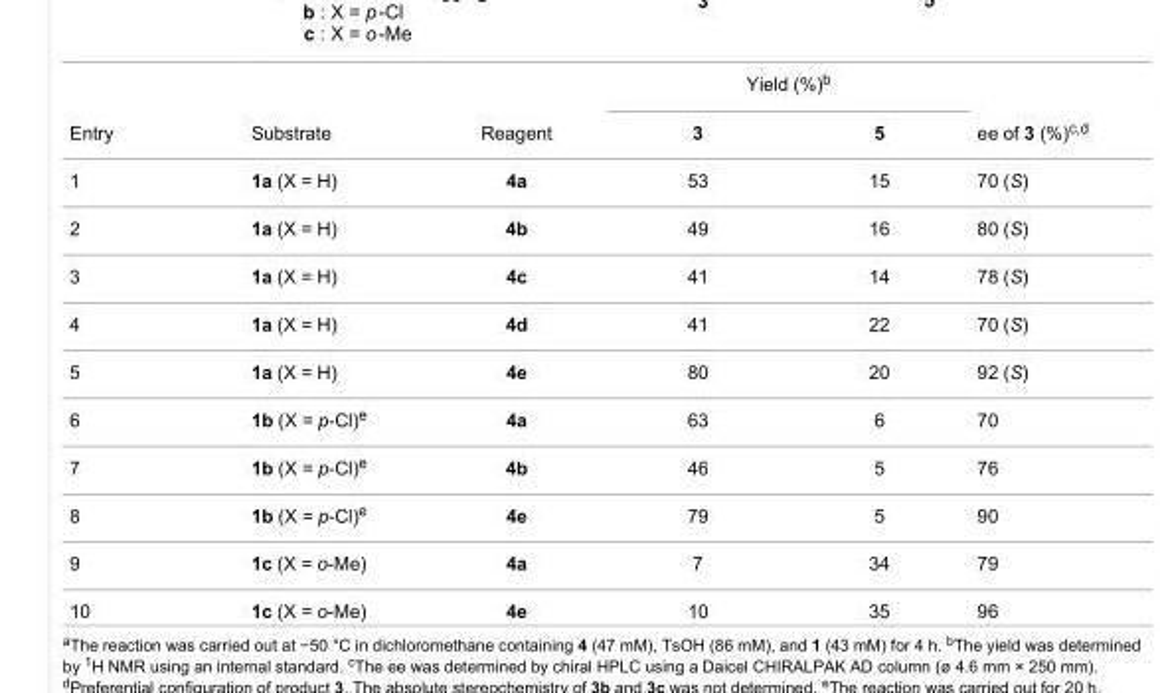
<table><thead><tr><td rowspan="2">Entry</td><td rowspan="2">Substrate</td><td rowspan="2">Reagent</td><td colspan="2">Yield (%)<sup>b</sup></td><td rowspan="2">ee of 3 (%)<sup>c,d</sup></td></tr><tr><td>3</td><td>5</td></tr></thead><tbody><tr><td>1</td><td>1a (X = H)</td><td>4a</td><td>53</td><td>15</td><td>70 (S)</td></tr><tr><td>2</td><td>1a (X = H)</td><td>4b</td><td>49</td><td>16</td><td>80 (S)</td></tr><tr><td>3</td><td>1a (X = H)</td><td>4c</td><td>41</td><td>14</td><td>78 (S)</td></tr><tr><td>4</td><td>1a (X = H)</td><td>4d</td><td>41</td><td>22</td><td>70 (S)</td></tr><tr><td>5</td><td>1a (X = H)</td><td>4e</td><td>80</td><td>20</td><td>92 (S)</td></tr><tr><td>6</td><td>1b (X = p-Cl)<sup>e</sup></td><td>4a</td><td>63</td><td>6</td><td>70</td></tr><tr><td>7</td><td>1b (X = p-Cl)<sup>e</sup></td><td>4b</td><td>46</td><td>5</td><td>76</td></tr><tr><td>8</td><td>1b (X = p-Cl)<sup>e</sup></td><td>4e</td><td>79</td><td>5</td><td>90</td></tr><tr><td>9</td><td>1c (X = o-Me)</td><td>4a</td><td>7</td><td>34</td><td>79</td></tr><tr><td>10</td><td>1c (X = o-Me)</td><td>4e</td><td>10</td><td>35</td><td>96</td></tr></tbody></table>